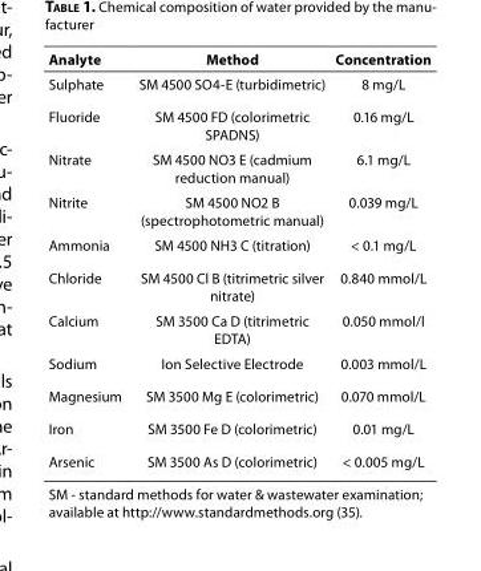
<table><thead><tr><td>Analyte</td><td>Method</td><td>Concentration</td></tr></thead><tbody><tr><td>Sulphate</td><td>SM 4500 SO4-E (turbidimetric)</td><td>8 mg/L</td></tr><tr><td>Fluoride</td><td>SM 4500 FD (colorimetric SPADNS)</td><td>0.16 mg/L</td></tr><tr><td>Nitrate</td><td>SM 4500 NO3 E (cadmium reduction manual)</td><td>6.1 mg/L</td></tr><tr><td>Nitrite</td><td>SM 4500 NO2 B (spectrophotometric manual)</td><td>0.039 mg/L</td></tr><tr><td>Ammonia</td><td>SM 4500 NH3 C (titration)</td><td>&lt; 0.1 mg/L</td></tr><tr><td>Chloride</td><td>SM 4500 Cl B (titrimetric silver nitrate)</td><td>0.840 mmol/L</td></tr><tr><td>Calcium</td><td>SM 3500 Ca D (titrimetric EDTA)</td><td>0.050 mmol/l</td></tr><tr><td>Sodium</td><td>Ion Selective Electrode</td><td>0.003 mmol/L</td></tr><tr><td>Magnesium</td><td>SM 3500 Mg E (colorimetric)</td><td>0.070 mmol/L</td></tr><tr><td>Iron</td><td>SM 3500 Fe D (colorimetric)</td><td>0.01 mg/L</td></tr><tr><td>Arsenic</td><td>SM 3500 As D (colorimetric)</td><td>&lt; 0.005 mg/L</td></tr><tr><td colspan="3">SM - standard methods for water &amp; wastewater examination; available at http://www.standardmethods.org (35).</td></tr></tbody></table>